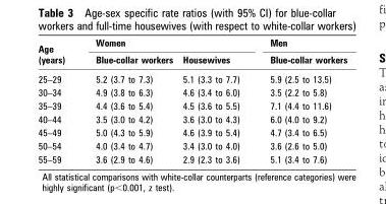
<table><thead><tr><td rowspan="2">Age (years)</td><td colspan="2">Women</td><td rowspan="2">Men Blue-collar workers</td></tr><tr><td>Blue-collar workers</td><td>Housewives</td></tr></thead><tbody><tr><td>25–29</td><td>5.2 (3.7 to 7.3)</td><td>5.1 (3.3 to 7.7)</td><td>5.9 (2.5 to 13.5)</td></tr><tr><td>30–34</td><td>4.9 (3.8 to 6.3)</td><td>4.6 (3.4 to 6.0)</td><td>3.5 (2.2 to 5.8)</td></tr><tr><td>35–39</td><td>4.4 (3.6 to 5.4)</td><td>4.5 (3.6 to 5.5)</td><td>7.1 (4.4 to 11.6)</td></tr><tr><td>40–44</td><td>3.5 (3.0 to 4.2)</td><td>3.6 (3.0 to 4.3)</td><td>6.0 (4.0 to 9.2)</td></tr><tr><td>45–49</td><td>5.0 (4.3 to 5.9)</td><td>4.6 (3.9 to 5.4)</td><td>4.7 (3.4 to 6.5)</td></tr><tr><td>50–54</td><td>4.0 (3.4 to 4.7)</td><td>3.4 (3.0 to 4.0)</td><td>3.6 (2.6 to 5.0)</td></tr><tr><td>55–59</td><td>3.6 (2.9 to 4.6)</td><td>2.9 (2.3 to 3.6)</td><td>5.1 (3.4 to 7.6)</td></tr></tbody></table>